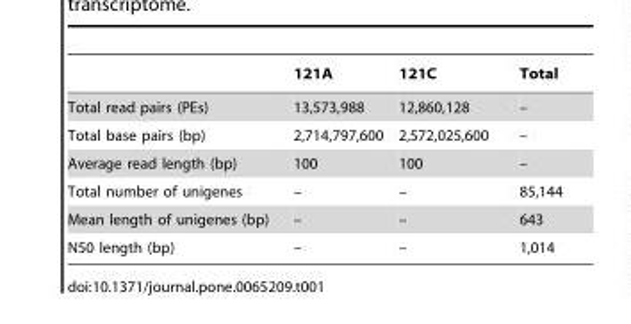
<table><thead><tr><td></td><td>121A</td><td>121C</td><td>Total</td></tr></thead><tbody><tr><td>Total read pairs (PEs)</td><td>13,573,988</td><td>12,860,128</td><td>–</td></tr><tr><td>Total base pairs (bp)</td><td>2,714,797,600</td><td>2,572,025,600</td><td>–</td></tr><tr><td>Average read length (bp)</td><td>100</td><td>100</td><td>–</td></tr><tr><td>Total number of unigenes</td><td>–</td><td>–</td><td>85,144</td></tr><tr><td>Mean length of unigenes (bp)</td><td>–</td><td>–</td><td>643</td></tr><tr><td>N50 length (bp)</td><td>–</td><td>–</td><td>1,014</td></tr></tbody></table>